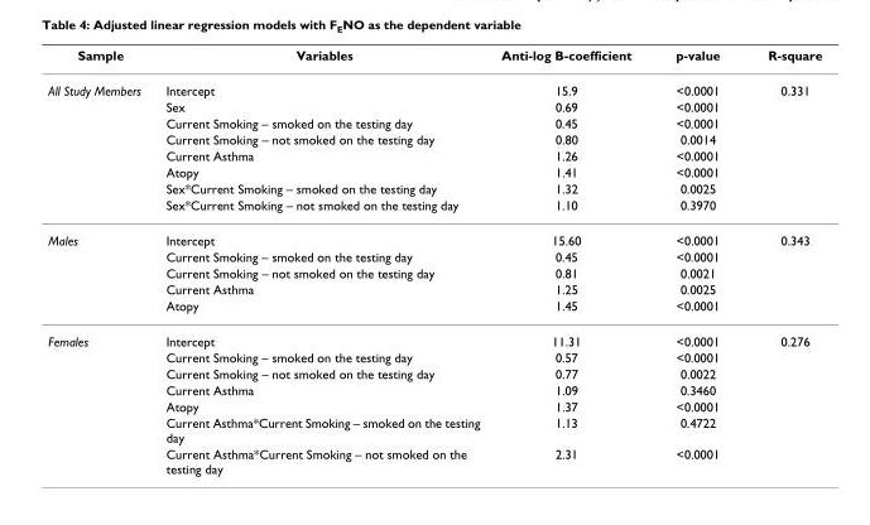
<table><thead><tr><td>Sample</td><td>Variables</td><td>Anti-log B-coefficient</td><td>p-value</td><td>R-square</td></tr></thead><tbody><tr><td rowspan="8">All Study Members</td><td>Intercept</td><td>15.9</td><td>&lt;0.0001</td><td>0.331</td></tr><tr><td>Sex</td><td>0.69</td><td>&lt;0.0001</td><td></td></tr><tr><td>Current Smoking – smoked on the testing day</td><td>0.45</td><td>&lt;0.0001</td><td></td></tr><tr><td>Current Smoking – not smoked on the testing day</td><td>0.80</td><td>0.0014</td><td></td></tr><tr><td>Current Asthma</td><td>1.26</td><td>&lt;0.0001</td><td></td></tr><tr><td>Atopy</td><td>1.41</td><td>&lt;0.0001</td><td></td></tr><tr><td>Sex*Current Smoking – smoked on the testing day</td><td>1.32</td><td>0.0025</td><td></td></tr><tr><td>Sex*Current Smoking – not smoked on the testing day</td><td>1.10</td><td>0.3970</td><td></td></tr><tr><td rowspan="5">Males</td><td>Intercept</td><td>15.60</td><td>&lt;0.0001</td><td>0.343</td></tr><tr><td>Current Smoking – smoked on the testing day</td><td>0.45</td><td>&lt;0.0001</td><td></td></tr><tr><td>Current Smoking – not smoked on the testing day</td><td>0.81</td><td>0.0021</td><td></td></tr><tr><td>Current Asthma</td><td>1.25</td><td>0.0025</td><td></td></tr><tr><td>Atopy</td><td>1.45</td><td>&lt;0.0001</td><td></td></tr><tr><td rowspan="7">Females</td><td>Intercept</td><td>11.31</td><td>&lt;0.0001</td><td>0.276</td></tr><tr><td>Current Smoking – smoked on the testing day</td><td>0.57</td><td>&lt;0.0001</td><td></td></tr><tr><td>Current Smoking – not smoked on the testing day</td><td>0.77</td><td>0.0022</td><td></td></tr><tr><td>Current Asthma</td><td>1.09</td><td>0.3460</td><td></td></tr><tr><td>Atopy</td><td>1.37</td><td>&lt;0.0001</td><td></td></tr><tr><td>Current Asthma*Current Smoking – smoked on the testing day</td><td>1.13</td><td>0.4722</td><td></td></tr><tr><td>Current Asthma*Current Smoking – not smoked on the testing day</td><td>2.31</td><td>&lt;0.0001</td><td></td></tr></tbody></table>